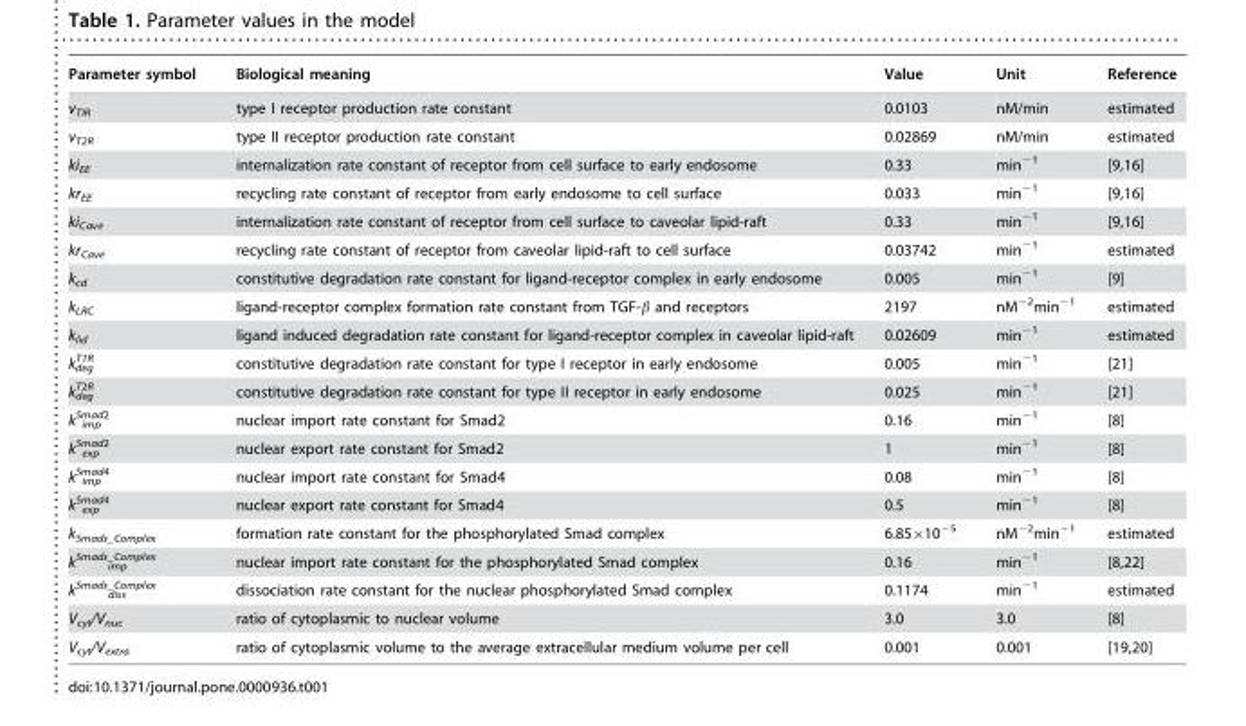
<table><thead><tr><td>Parameter symbol</td><td>Biological meaning</td><td>Value</td><td>Unit</td><td>Reference</td></tr></thead><tbody><tr><td>v<sub>TIR</sub></td><td>type I receptor production rate constant</td><td>0.0103</td><td>nM/min</td><td>estimated</td></tr><tr><td>v<sub>T2R</sub></td><td>type II receptor production rate constant</td><td>0.02869</td><td>nM/min</td><td>estimated</td></tr><tr><td>ki<sub>EE</sub></td><td>internalization rate constant of receptor from cell surface to early endosome</td><td>0.33</td><td>min<sup>−1</sup></td><td>[9,16]</td></tr><tr><td>kr<sub>EE</sub></td><td>recycling rate constant of receptor from early endosome to cell surface</td><td>0.033</td><td>min<sup>−1</sup></td><td>[9,16]</td></tr><tr><td>ki<sub>Cave</sub></td><td>internalization rate constant of receptor from cell surface to caveolar lipid-raft</td><td>0.33</td><td>min<sup>−1</sup></td><td>[9,16]</td></tr><tr><td>kr<sub>Cave</sub></td><td>recycling rate constant of receptor from caveolar lipid-raft to cell surface</td><td>0.03742</td><td>min<sup>−1</sup></td><td>estimated</td></tr><tr><td>k<sub>cd</sub></td><td>constitutive degradation rate constant for ligand-receptor complex in early endosome</td><td>0.005</td><td>min<sup>−1</sup></td><td>[9]</td></tr><tr><td>k<sub>LRC</sub></td><td>ligand-receptor complex formation rate constant from TGF-β and receptors</td><td>2197</td><td>nM<sup>−2</sup>min<sup>−1</sup></td><td>estimated</td></tr><tr><td>k<sub>lid</sub></td><td>ligand induced degradation rate constant for ligand-receptor complex in caveolar lipid-raft</td><td>0.02609</td><td>min<sup>−1</sup></td><td>estimated</td></tr><tr><td>k<sup>T1R</sup> <sub>deg</sub></td><td>constitutive degradation rate constant for type I receptor in early endosome</td><td>0.005</td><td>min<sup>−1</sup></td><td>[21]</td></tr><tr><td>k<sup>T2R</sup> <sub>deg</sub></td><td>constitutive degradation rate constant for type II receptor in early endosome</td><td>0.025</td><td>min<sup>−1</sup></td><td>[21]</td></tr><tr><td>k<sup>Smad2</sup> <sub>imp</sub></td><td>nuclear import rate constant for Smad2</td><td>0.16</td><td>min<sup>−1</sup></td><td>[8]</td></tr><tr><td>k<sup>Smad2</sup> <sub>exp</sub></td><td>nuclear export rate constant for Smad2</td><td>1</td><td>min<sup>−1</sup></td><td>[8]</td></tr><tr><td>k<sup>Smad4</sup> <sub>imp</sub></td><td>nuclear import rate constant for Smad4</td><td>0.08</td><td>min<sup>−1</sup></td><td>[8]</td></tr><tr><td>k<sup>Smad4</sup> <sub>exp</sub></td><td>nuclear export rate constant for Smad4</td><td>0.5</td><td>min<sup>−1</sup></td><td>[8]</td></tr><tr><td>k<sub>Smads_Complex</sub></td><td>formation rate constant for the phosphorylated Smad complex</td><td>6.85×10<sup>−5</sup></td><td>nM<sup>−2</sup>min<sup>−1</sup></td><td>estimated</td></tr><tr><td>k<sup>Smads_Complex</sup> <sub>imp</sub></td><td>nuclear import rate constant for the phosphorylated Smad complex</td><td>0.16</td><td>min<sup>−1</sup></td><td>[8,22]</td></tr><tr><td>k<sup>Smads_Complex</sup> <sub>diss</sub></td><td>dissociation rate constant for the nuclear phosphorylated Smad complex</td><td>0.1174</td><td>min<sup>−1</sup></td><td>estimated</td></tr><tr><td>V<sub>cyt</sub>/V<sub>nuc</sub></td><td>ratio of cytoplasmic to nuclear volume</td><td>3.0</td><td>3.0</td><td>[8]</td></tr><tr><td>V<sub>cyt</sub>/V<sub>extra</sub></td><td>ratio of cytoplasmic volume to the average extracellular medium volume per cell</td><td>0.001</td><td>0.001</td><td>[19,20]</td></tr></tbody></table>